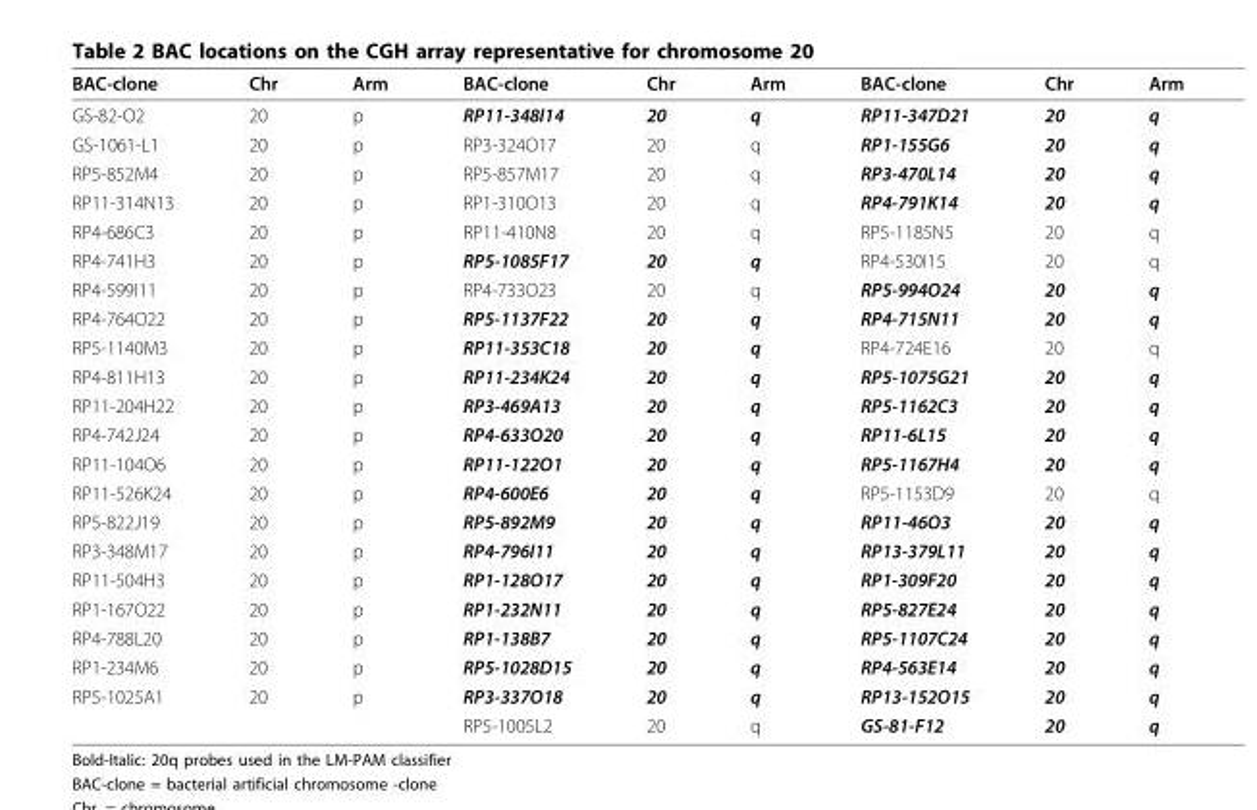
<table><thead><tr><td>BAC-clone</td><td>Chr</td><td>Arm</td><td>BAC-clone</td><td>Chr</td><td>Arm</td><td>BAC-clone</td><td>Chr</td><td>Arm</td></tr></thead><tbody><tr><td>GS-82-O2</td><td>20</td><td>p</td><td>RP11-348I14</td><td>20</td><td>q</td><td>RP11-347D21</td><td>20</td><td>q</td></tr><tr><td>GS-1061-L1</td><td>20</td><td>p</td><td>RP3-324O17</td><td>20</td><td>q</td><td>RP1-155G6</td><td>20</td><td>q</td></tr><tr><td>RP5-852M4</td><td>20</td><td>p</td><td>RP5-857M17</td><td>20</td><td>q</td><td>RP3-470L14</td><td>20</td><td>q</td></tr><tr><td>RP11-314N13</td><td>20</td><td>p</td><td>RP1-310O13</td><td>20</td><td>q</td><td>RP4-791K14</td><td>20</td><td>q</td></tr><tr><td>RP4-686C3</td><td>20</td><td>p</td><td>RP11-410N8</td><td>20</td><td>q</td><td>RP5-1185N5</td><td>20</td><td>q</td></tr><tr><td>RP4-741H3</td><td>20</td><td>p</td><td>RP5-1085F17</td><td>20</td><td>q</td><td>RP4-530I15</td><td>20</td><td>q</td></tr><tr><td>RP4-599I11</td><td>20</td><td>p</td><td>RP4-733O23</td><td>20</td><td>q</td><td>RP5-994O24</td><td>20</td><td>q</td></tr><tr><td>RP4-764O22</td><td>20</td><td>p</td><td>RP5-1137F22</td><td>20</td><td>q</td><td>RP4-715N11</td><td>20</td><td>q</td></tr><tr><td>RP5-1140M3</td><td>20</td><td>p</td><td>RP11-353C18</td><td>20</td><td>q</td><td>RP4-724E16</td><td>20</td><td>q</td></tr><tr><td>RP4-811H13</td><td>20</td><td>p</td><td>RP11-234K24</td><td>20</td><td>q</td><td>RP5-1075G21</td><td>20</td><td>q</td></tr><tr><td>RP11-204H22</td><td>20</td><td>p</td><td>RP3-469A13</td><td>20</td><td>q</td><td>RP5-1162C3</td><td>20</td><td>q</td></tr><tr><td>RP4-742J24</td><td>20</td><td>p</td><td>RP4-633O20</td><td>20</td><td>q</td><td>RP11-6L15</td><td>20</td><td>q</td></tr><tr><td>RP11-104O6</td><td>20</td><td>p</td><td>RP11-122O1</td><td>20</td><td>q</td><td>RP5-1167H4</td><td>20</td><td>q</td></tr><tr><td>RP11-526K24</td><td>20</td><td>p</td><td>RP4-600E6</td><td>20</td><td>q</td><td>RP5-1153D9</td><td>20</td><td>q</td></tr><tr><td>RP5-822J19</td><td>20</td><td>p</td><td>RP5-892M9</td><td>20</td><td>q</td><td>RP11-46O3</td><td>20</td><td>q</td></tr><tr><td>RP3-348M17</td><td>20</td><td>p</td><td>RP4-796I11</td><td>20</td><td>q</td><td>RP13-379L11</td><td>20</td><td>q</td></tr><tr><td>RP11-504H3</td><td>20</td><td>p</td><td>RP1-128O17</td><td>20</td><td>q</td><td>RP1-309F20</td><td>20</td><td>q</td></tr><tr><td>RP1-167O22</td><td>20</td><td>p</td><td>RP1-232N11</td><td>20</td><td>q</td><td>RP5-827E24</td><td>20</td><td>q</td></tr><tr><td>RP4-788L20</td><td>20</td><td>p</td><td>RP1-138B7</td><td>20</td><td>q</td><td>RP5-1107C24</td><td>20</td><td>q</td></tr><tr><td>RP1-234M6</td><td>20</td><td>p</td><td>RP5-1028D15</td><td>20</td><td>q</td><td>RP4-563E14</td><td>20</td><td>q</td></tr><tr><td rowspan="2">RP5-1025A1</td><td>20</td><td>p</td><td>RP3-337O18</td><td>20</td><td>q</td><td>RP13-152O15</td><td>20</td><td>q</td></tr><tr><td></td><td></td><td>RP5-1005L2</td><td>20</td><td>q</td><td>GS-81-F12</td><td>20</td><td>q</td></tr></tbody></table>